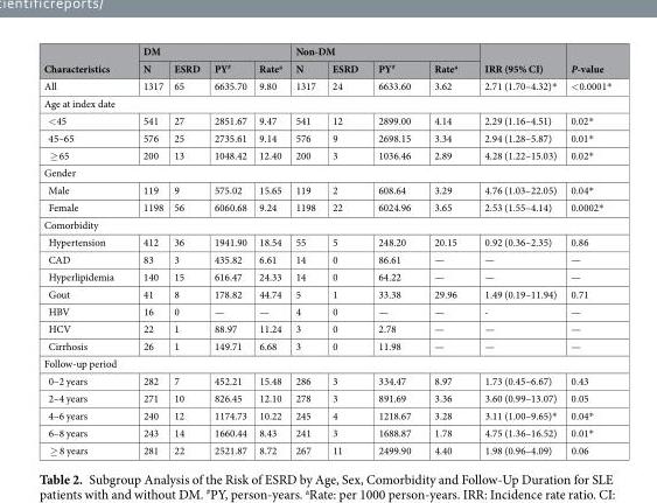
<table><thead><tr><td rowspan="2">Characteristics</td><td colspan="4">DM</td><td colspan="4">Non-DM</td><td rowspan="2">IRR (95% CI)</td><td rowspan="2">P-value</td></tr><tr><td>N</td><td>ESRD</td><td>PY<sup>#</sup></td><td>Rate<sup>a</sup></td><td>N</td><td>ESRD</td><td>PY<sup>#</sup></td><td>Rate<sup>a</sup></td></tr></thead><tbody><tr><td>All</td><td>1317</td><td>65</td><td>6635.70</td><td>9.80</td><td>1317</td><td>24</td><td>6633.60</td><td>3.62</td><td>2.71 (1.70–4.32)*</td><td>&lt;0.0001*</td></tr><tr><td colspan="11">Age at index date</td></tr><tr><td>&lt;45</td><td>541</td><td>27</td><td>2851.67</td><td>9.47</td><td>541</td><td>12</td><td>2899.00</td><td>4.14</td><td>2.29 (1.16–4.51)</td><td>0.02*</td></tr><tr><td>45–65</td><td>576</td><td>25</td><td>2735.61</td><td>9.14</td><td>576</td><td>9</td><td>2698.15</td><td>3.34</td><td>2.94 (1.28–5.87)</td><td>0.01*</td></tr><tr><td>≥ 65</td><td>200</td><td>13</td><td>1048.42</td><td>12.40</td><td>200</td><td>3</td><td>1036.46</td><td>2.89</td><td>4.28 (1.22–15.03)</td><td>0.02*</td></tr><tr><td colspan="11">Gender</td></tr><tr><td>Male</td><td>119</td><td>9</td><td>575.02</td><td>15.65</td><td>119</td><td>2</td><td>608.64</td><td>3.29</td><td>4.76 (1.03–22.05)</td><td>0.04*</td></tr><tr><td>Female</td><td>1198</td><td>56</td><td>6060.68</td><td>9.24</td><td>1198</td><td>22</td><td>6024.96</td><td>3.65</td><td>2.53 (1.55–4.14)</td><td>0.0002*</td></tr><tr><td colspan="11">Comorbidity</td></tr><tr><td>Hypertension</td><td>412</td><td>36</td><td>1941.90</td><td>18.54</td><td>55</td><td>5</td><td>248.20</td><td>20.15</td><td>0.92 (0.36–2.35)</td><td>0.86</td></tr><tr><td>CAD</td><td>83</td><td>3</td><td>435.82</td><td>6.61</td><td>14</td><td>0</td><td>86.61</td><td>—</td><td>—</td><td>—</td></tr><tr><td>Hyperlipidemia</td><td>140</td><td>15</td><td>616.47</td><td>24.33</td><td>14</td><td>0</td><td>64.22</td><td>—</td><td>—</td><td>—</td></tr><tr><td>Gout</td><td>41</td><td>8</td><td>178.82</td><td>44.74</td><td>5</td><td>1</td><td>33.38</td><td>29.96</td><td>1.49 (0.19–11.94)</td><td>0.71</td></tr><tr><td>HBV</td><td>16</td><td>0</td><td>—</td><td>—</td><td>4</td><td>0</td><td>—</td><td>—</td><td>-</td><td>—</td></tr><tr><td>HCV</td><td>22</td><td>1</td><td>88.97</td><td>11.24</td><td>3</td><td>0</td><td>2.78</td><td>—</td><td>—</td><td>—</td></tr><tr><td>Cirrhosis</td><td>26</td><td>1</td><td>149.71</td><td>6.68</td><td>3</td><td>0</td><td>11.98</td><td>—</td><td>—</td><td>—</td></tr><tr><td colspan="11">Follow-up period</td></tr><tr><td>0–2 years</td><td>282</td><td>7</td><td>452.21</td><td>15.48</td><td>286</td><td>3</td><td>334.47</td><td>8.97</td><td>1.73 (0.45–6.67)</td><td>0.43</td></tr><tr><td>2–4 years</td><td>271</td><td>10</td><td>826.45</td><td>12.10</td><td>278</td><td>3</td><td>891.69</td><td>3.36</td><td>3.60 (0.99–13.07)</td><td>0.05</td></tr><tr><td>4–6 years</td><td>240</td><td>12</td><td>1174.73</td><td>10.22</td><td>245</td><td>4</td><td>1218.67</td><td>3.28</td><td>3.11 (1.00–9.65)*</td><td>0.04*</td></tr><tr><td>6–8 years</td><td>243</td><td>14</td><td>1660.44</td><td>8.43</td><td>241</td><td>3</td><td>1688.87</td><td>1.78</td><td>4.75 (1.36–16.52)</td><td>0.01*</td></tr><tr><td>≥ 8 years</td><td>281</td><td>22</td><td>2521.87</td><td>8.72</td><td>267</td><td>11</td><td>2499.90</td><td>4.40</td><td>1.98 (0.96–4.09)</td><td>0.06</td></tr></tbody></table>